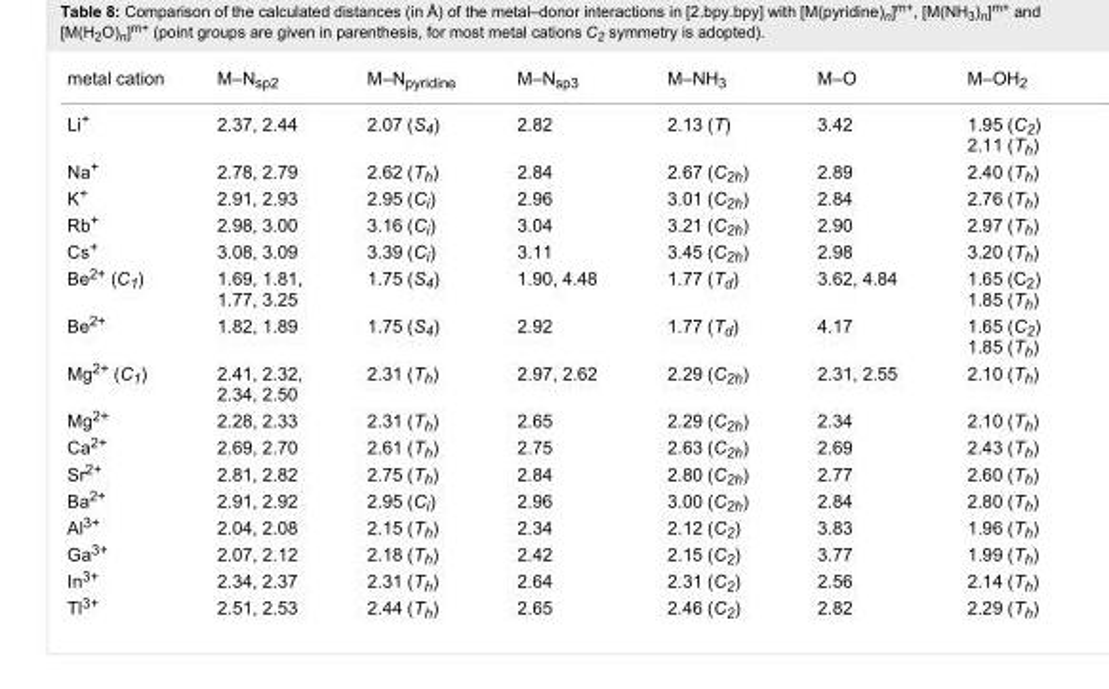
<table><tbody><tr><td>metal cation</td><td>M–N<sub>sp2</sub></td><td>M–N<sub>pyridine</sub></td><td>M–N<sub>sp3</sub></td><td>M–NH<sub>3</sub></td><td>M–O</td><td>M–OH<sub>2</sub></td></tr><tr><td>Li<sup>+</sup></td><td>2.37, 2.44</td><td>2.07 (S<sub>4</sub>)</td><td>2.82</td><td>2.13 (T)</td><td>3.42</td><td>1.95 (C<sub>2</sub>) 2.11 (T<sub>h</sub>)</td></tr><tr><td>Na<sup>+</sup></td><td>2.78, 2.79</td><td>2.62 (T<sub>h</sub>)</td><td>2.84</td><td>2.67 (C<sub>2h</sub>)</td><td>2.89</td><td>2.40 (T<sub>h</sub>)</td></tr><tr><td>K<sup>+</sup></td><td>2.91, 2.93</td><td>2.95 (C<sub>i</sub>)</td><td>2.96</td><td>3.01 (C<sub>2h</sub>)</td><td>2.84</td><td>2.76 (T<sub>h</sub>)</td></tr><tr><td>Rb<sup>+</sup></td><td>2.98, 3.00</td><td>3.16 (C<sub>i</sub>)</td><td>3.04</td><td>3.21 (C<sub>2h</sub>)</td><td>2.90</td><td>2.97 (T<sub>h</sub>)</td></tr><tr><td>Cs<sup>+</sup></td><td>3.08, 3.09</td><td>3.39 (C<sub>i</sub>)</td><td>3.11</td><td>3.45 (C<sub>2h</sub>)</td><td>2.98</td><td>3.20 (T<sub>h</sub>)</td></tr><tr><td>Be<sup>2+</sup> (C<sub>1</sub>)</td><td>1.69, 1.81, 1.77, 3.25</td><td>1.75 (S<sub>4</sub>)</td><td>1.90, 4.48</td><td>1.77 (T<sub>d</sub>)</td><td>3.62, 4.84</td><td>1.65 (C<sub>2</sub>) 1.85 (T<sub>h</sub>)</td></tr><tr><td>Be<sup>2+</sup></td><td>1.82, 1.89</td><td>1.75 (S<sub>4</sub>)</td><td>2.92</td><td>1.77 (T<sub>d</sub>)</td><td>4.17</td><td>1.65 (C<sub>2</sub>) 1.85 (T<sub>h</sub>)</td></tr><tr><td>Mg<sup>2+</sup> (C<sub>1</sub>)</td><td>2.41, 2.32, 2.34, 2.50</td><td>2.31 (T<sub>h</sub>)</td><td>2.97, 2.62</td><td>2.29 (C<sub>2h</sub>)</td><td>2.31, 2.55</td><td>2.10 (T<sub>h</sub>)</td></tr><tr><td>Mg<sup>2+</sup></td><td>2.28, 2.33</td><td>2.31 (T<sub>h</sub>)</td><td>2.65</td><td>2.29 (C<sub>2h</sub>)</td><td>2.34</td><td>2.10 (T<sub>h</sub>)</td></tr><tr><td>Ca<sup>2+</sup></td><td>2.69, 2.70</td><td>2.61 (T<sub>h</sub>)</td><td>2.75</td><td>2.63 (C<sub>2h</sub>)</td><td>2.69</td><td>2.43 (T<sub>h</sub>)</td></tr><tr><td>Sr<sup>2+</sup></td><td>2.81, 2.82</td><td>2.75 (T<sub>h</sub>)</td><td>2.84</td><td>2.80 (C<sub>2h</sub>)</td><td>2.77</td><td>2.60 (T<sub>h</sub>)</td></tr><tr><td>Ba<sup>2+</sup></td><td>2.91, 2.92</td><td>2.95 (C<sub>i</sub>)</td><td>2.96</td><td>3.00 (C<sub>2h</sub>)</td><td>2.84</td><td>2.80 (T<sub>h</sub>)</td></tr><tr><td>Al<sup>3+</sup></td><td>2.04, 2.08</td><td>2.15 (T<sub>h</sub>)</td><td>2.34</td><td>2.12 (C<sub>2</sub>)</td><td>3.83</td><td>1.96 (T<sub>h</sub>)</td></tr><tr><td>Ga<sup>3+</sup></td><td>2.07, 2.12</td><td>2.18 (T<sub>h</sub>)</td><td>2.42</td><td>2.15 (C<sub>2</sub>)</td><td>3.77</td><td>1.99 (T<sub>h</sub>)</td></tr><tr><td>In<sup>3+</sup></td><td>2.34, 2.37</td><td>2.31 (T<sub>h</sub>)</td><td>2.64</td><td>2.31 (C<sub>2</sub>)</td><td>2.56</td><td>2.14 (T<sub>h</sub>)</td></tr><tr><td>Tl<sup>3+</sup></td><td>2.51, 2.53</td><td>2.44 (T<sub>h</sub>)</td><td>2.65</td><td>2.46 (C<sub>2</sub>)</td><td>2.82</td><td>2.29 (T<sub>h</sub>)</td></tr></tbody></table>